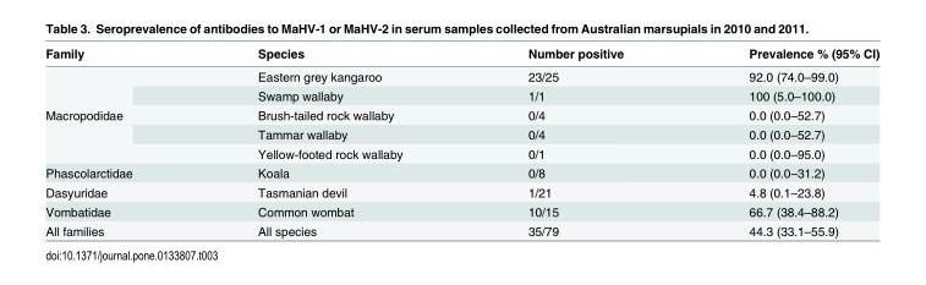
<table><thead><tr><td>Family</td><td>Species</td><td>Number positive</td><td>Prevalence % (95% CI)</td></tr></thead><tbody><tr><td rowspan="5">Macropodidae</td><td>Eastern grey kangaroo</td><td>23/25</td><td>92.0 (74.0–99.0)</td></tr><tr><td>Swamp wallaby</td><td>1/1</td><td>100 (5.0–100.0)</td></tr><tr><td>Brush-tailed rock wallaby</td><td>0/4</td><td>0.0 (0.0–52.7)</td></tr><tr><td>Tammar wallaby</td><td>0/4</td><td>0.0 (0.0–52.7)</td></tr><tr><td>Yellow-footed rock wallaby</td><td>0/1</td><td>0.0 (0.0–95.0)</td></tr><tr><td>Phascolarctidae</td><td>Koala</td><td>0/8</td><td>0.0 (0.0–31.2)</td></tr><tr><td>Dasyuridae</td><td>Tasmanian devil</td><td>1/21</td><td>4.8 (0.1–23.8)</td></tr><tr><td>Vombatidae</td><td>Common wombat</td><td>10/15</td><td>66.7 (38.4–88.2)</td></tr><tr><td>All families</td><td>All species</td><td>35/79</td><td>44.3 (33.1–55.9)</td></tr></tbody></table>